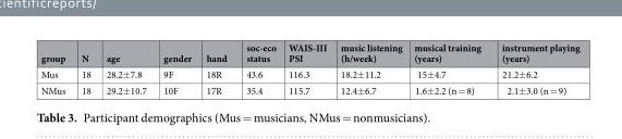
<table><thead><tr><td>group</td><td>N</td><td>age</td><td>gender</td><td>hand</td><td>soc-eco status</td><td>WAIS-III PSI</td><td>music listening (h/week)</td><td>musical training (years)</td><td>instrument playing (years)</td></tr></thead><tbody><tr><td>Mus</td><td>18</td><td>28.2±7.8</td><td>9F</td><td>18R</td><td>43.6</td><td>116.3</td><td>18.2±11.2</td><td>15±4.7</td><td>21.2±6.2</td></tr><tr><td>NMus</td><td>18</td><td>29.2±10.7</td><td>10F</td><td>17R</td><td>35.4</td><td>115.7</td><td>12.4±6.7</td><td>1.6±2.2 (n = 8)</td><td>2.1±3.0 (n = 9)</td></tr></tbody></table>